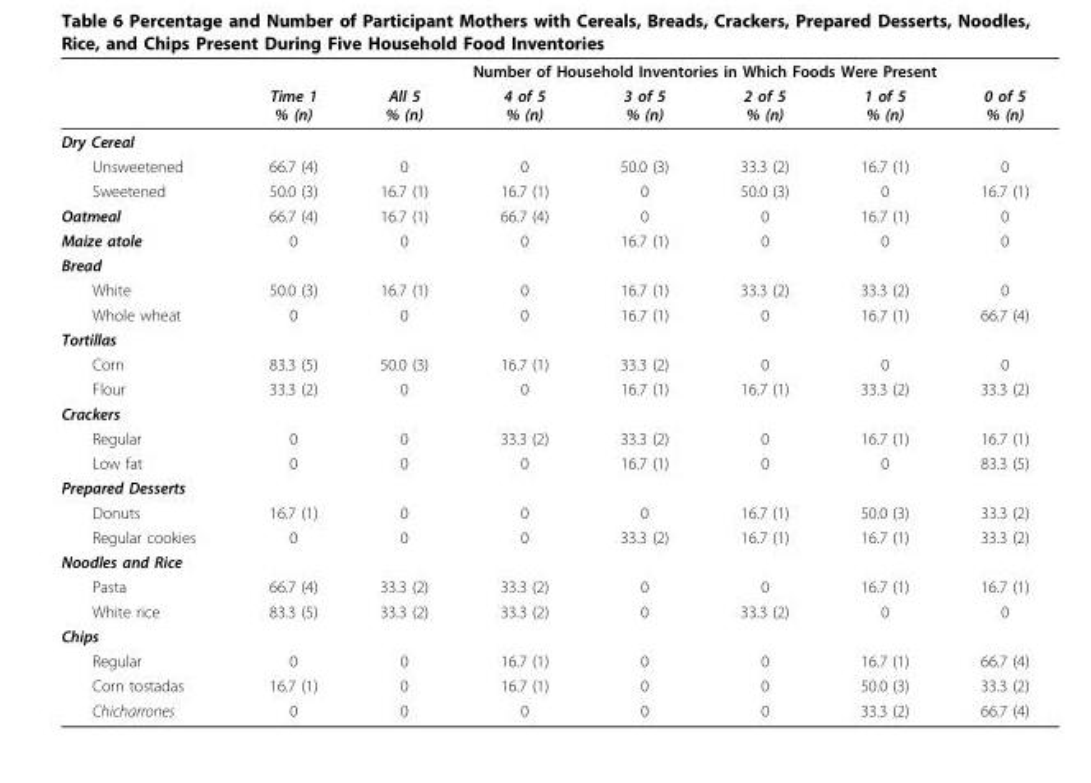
<table><thead><tr><td rowspan="2"></td><td rowspan="2">Time 1 % (n)</td><td colspan="6">Number of Household Inventories in Which Foods Were Present</td></tr><tr><td>All 5 % (n)</td><td>4 of 5 % (n)</td><td>3 of 5 % (n)</td><td>2 of 5 % (n)</td><td>1 of 5 % (n)</td><td>0 of 5 % (n)</td></tr></thead><tbody><tr><td colspan="8">Dry Cereal</td></tr><tr><td>Unsweetened</td><td>66.7 (4)</td><td>0</td><td>0</td><td>50.0 (3)</td><td>33.3 (2)</td><td>16.7 (1)</td><td>0</td></tr><tr><td>Sweetened</td><td>50.0 (3)</td><td>16.7 (1)</td><td>16.7 (1)</td><td>0</td><td>50.0 (3)</td><td>0</td><td>16.7 (1)</td></tr><tr><td>Oatmeal</td><td>66.7 (4)</td><td>16.7 (1)</td><td>66.7 (4)</td><td>0</td><td>0</td><td>16.7 (1)</td><td>0</td></tr><tr><td>Maize atole</td><td>0</td><td>0</td><td>0</td><td>16.7 (1)</td><td>0</td><td>0</td><td>0</td></tr><tr><td colspan="8">Bread</td></tr><tr><td>White</td><td>50.0 (3)</td><td>16.7 (1)</td><td>0</td><td>16.7 (1)</td><td>33.3 (2)</td><td>33.3 (2)</td><td>0</td></tr><tr><td>Whole wheat</td><td>0</td><td>0</td><td>0</td><td>16.7 (1)</td><td>0</td><td>16.7 (1)</td><td>66.7 (4)</td></tr><tr><td colspan="8">Tortillas</td></tr><tr><td>Corn</td><td>83.3 (5)</td><td>50.0 (3)</td><td>16.7 (1)</td><td>33.3 (2)</td><td>0</td><td>0</td><td>0</td></tr><tr><td>Flour</td><td>33.3 (2)</td><td>0</td><td>0</td><td>16.7 (1)</td><td>16.7 (1)</td><td>33.3 (2)</td><td>33.3 (2)</td></tr><tr><td colspan="8">Crackers</td></tr><tr><td>Regular</td><td>0</td><td>0</td><td>33.3 (2)</td><td>33.3 (2)</td><td>0</td><td>16.7 (1)</td><td>16.7 (1)</td></tr><tr><td>Low fat</td><td>0</td><td>0</td><td>0</td><td>16.7 (1)</td><td>0</td><td>0</td><td>83.3 (5)</td></tr><tr><td colspan="8">Prepared Desserts</td></tr><tr><td>Donuts</td><td>16.7 (1)</td><td>0</td><td>0</td><td>0</td><td>16.7 (1)</td><td>50.0 (3)</td><td>33.3 (2)</td></tr><tr><td>Regular cookies</td><td>0</td><td>0</td><td>0</td><td>33.3 (2)</td><td>16.7 (1)</td><td>16.7 (1)</td><td>33.3 (2)</td></tr><tr><td colspan="8">Noodles and Rice</td></tr><tr><td>Pasta</td><td>66.7 (4)</td><td>33.3 (2)</td><td>33.3 (2)</td><td>0</td><td>0</td><td>16.7 (1)</td><td>16.7 (1)</td></tr><tr><td>White rice</td><td>83.3 (5)</td><td>33.3 (2)</td><td>33.3 (2)</td><td>0</td><td>33.3 (2)</td><td>0</td><td>0</td></tr><tr><td colspan="8">Chips</td></tr><tr><td>Regular</td><td>0</td><td>0</td><td>16.7 (1)</td><td>0</td><td>0</td><td>16.7 (1)</td><td>66.7 (4)</td></tr><tr><td>Corn tostadas</td><td>16.7 (1)</td><td>0</td><td>16.7 (1)</td><td>0</td><td>0</td><td>50.0 (3)</td><td>33.3 (2)</td></tr><tr><td>Chicharrones</td><td>0</td><td>0</td><td>0</td><td>0</td><td>0</td><td>33.3 (2)</td><td>66.7 (4)</td></tr></tbody></table>